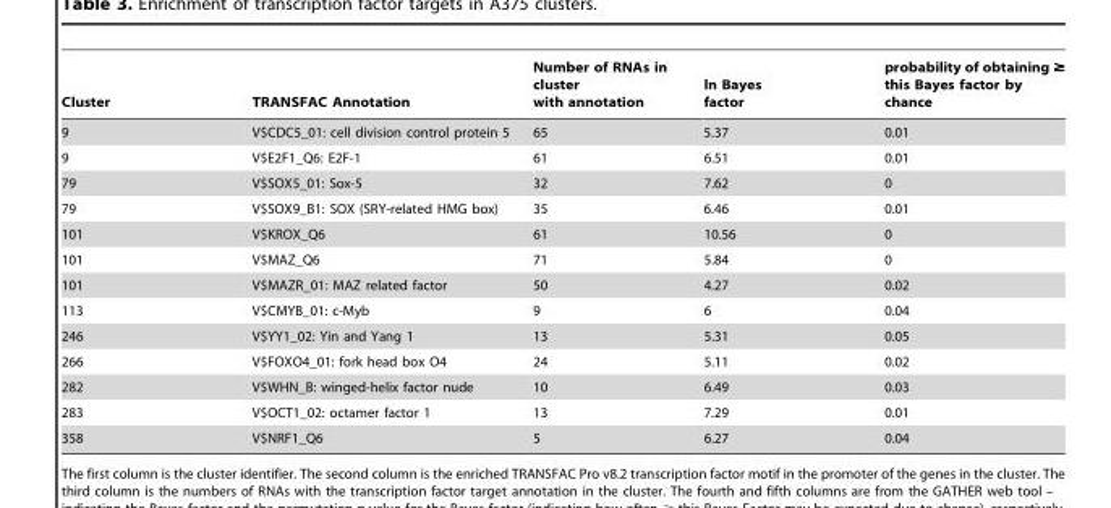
<table><thead><tr><td>Cluster</td><td>TRANSFAC Annotation</td><td>Number of RNAs in cluster with annotation</td><td>ln Bayes factor</td><td>probability of obtaining this Bayes factor by chance</td></tr></thead><tbody><tr><td>9</td><td>V$CDC5_01: cell division control protein 5</td><td>65</td><td>5.37</td><td>0.01</td></tr><tr><td>9</td><td>V$E2F1_Q6: E2F-1</td><td>61</td><td>6.51</td><td>0.01</td></tr><tr><td>79</td><td>V$SOX5_01: Sox-5</td><td>32</td><td>7.62</td><td>0</td></tr><tr><td>79</td><td>V$SOX9_B1: SOX (SRY-related HMG box)</td><td>35</td><td>6.46</td><td>0.01</td></tr><tr><td>101</td><td>V$KROX_Q6</td><td>61</td><td>10.56</td><td>0</td></tr><tr><td>101</td><td>V$MAZ_Q6</td><td>71</td><td>5.84</td><td>0</td></tr><tr><td>101</td><td>V$MAZR_01: MAZ related factor</td><td>50</td><td>4.27</td><td>0.02</td></tr><tr><td>113</td><td>V$CMYB_01: c-Myb</td><td>9</td><td>6</td><td>0.04</td></tr><tr><td>246</td><td>V$YY1_02: Yin and Yang 1</td><td>13</td><td>5.31</td><td>0.05</td></tr><tr><td>266</td><td>V$FOXO4_01: fork head box O4</td><td>24</td><td>5.11</td><td>0.02</td></tr><tr><td>282</td><td>V$WHN_B: winged-helix factor nude</td><td>10</td><td>6.49</td><td>0.03</td></tr><tr><td>283</td><td>V$OCT1_02: octamer factor 1</td><td>13</td><td>7.29</td><td>0.01</td></tr><tr><td>358</td><td>V$NRF1_Q6</td><td>5</td><td>6.27</td><td>0.04</td></tr></tbody></table>